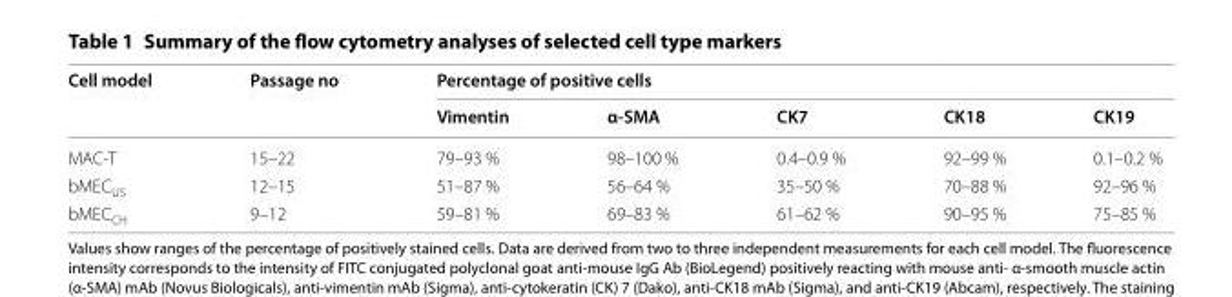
<table><thead><tr><td rowspan="2">Cell model</td><td rowspan="2">Passage no</td><td colspan="5">Percentage of positive cells</td></tr><tr><td>Vimentin</td><td>α-SMA</td><td>CK7</td><td>CK18</td><td>CK19</td></tr></thead><tbody><tr><td>MAC-T</td><td>15–22</td><td>79–93 %</td><td>98–100 %</td><td>0.4–0.9 %</td><td>92–99 %</td><td>0.1–0.2 %</td></tr><tr><td>bMEC<sub>US</sub></td><td>12–15</td><td>51–87 %</td><td>56–64 %</td><td>35–50 %</td><td>70–88 %</td><td>92–96 %</td></tr><tr><td>bMEC<sub>CH</sub></td><td>9–12</td><td>59–81 %</td><td>69–83 %</td><td>61–62 %</td><td>90–95 %</td><td>75–85 %</td></tr></tbody></table>